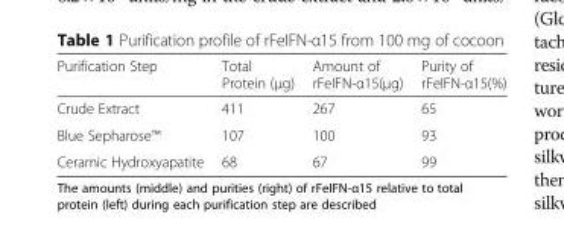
<table><thead><tr><td>Purification Step</td><td>Total Protein (μg)</td><td>Amount of rFeIFN-α15(μg)</td><td>Purity of rFeIFN-α15(%)</td></tr></thead><tbody><tr><td>Crude Extract</td><td>411</td><td>267</td><td>65</td></tr><tr><td>Blue Sepharose™</td><td>107</td><td>100</td><td>93</td></tr><tr><td>Ceramic Hydroxyapatite</td><td>68</td><td>67</td><td>99</td></tr></tbody></table>